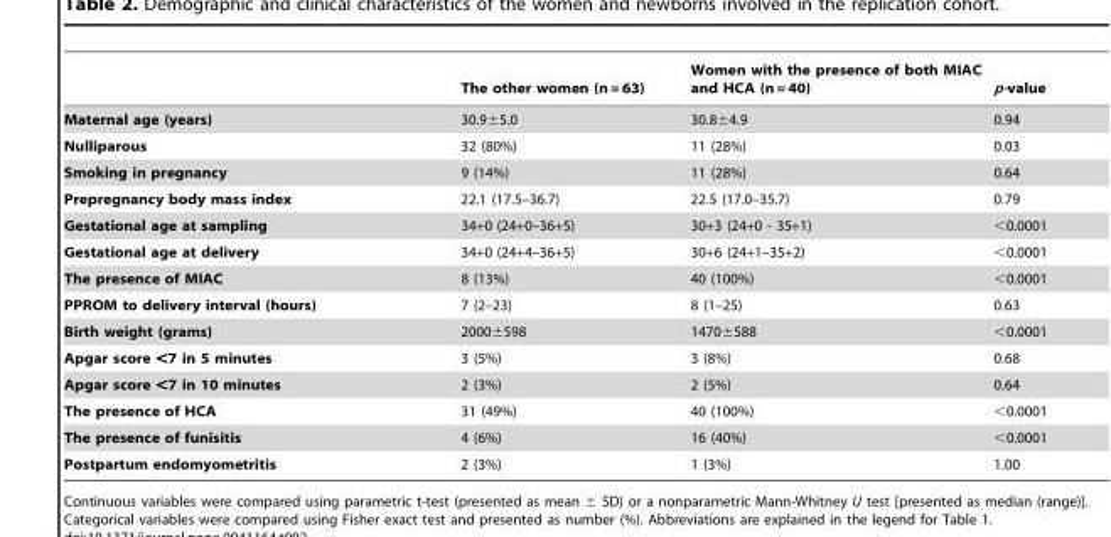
<table><thead><tr><td></td><td>The other women (n = 63)</td><td>Women with the presence of both MIAC and HCA (n = 40)</td><td>p-value</td></tr></thead><tbody><tr><td>Maternal age (years)</td><td>30.9±5.0</td><td>30.8±4.9</td><td>0.94</td></tr><tr><td>Nulliparous</td><td>32 (80%)</td><td>11 (28%)</td><td>0.03</td></tr><tr><td>Smoking in pregnancy</td><td>9 (14%)</td><td>11 (28%)</td><td>0.64</td></tr><tr><td>Prepregnancy body mass index</td><td>22.1 (17.5–36.7)</td><td>22.5 (17.0–35.7)</td><td>0.79</td></tr><tr><td>Gestational age at sampling</td><td>34+0 (24+0–36+5)</td><td>30+3 (24+0 - 35+1)</td><td>&lt;0.0001</td></tr><tr><td>Gestational age at delivery</td><td>34+0 (24+4–36+5)</td><td>30+6 (24+1–35+2)</td><td>&lt;0.0001</td></tr><tr><td>The presence of MIAC</td><td>8 (13%)</td><td>40 (100%)</td><td>&lt;0.0001</td></tr><tr><td>PPROM to delivery interval (hours)</td><td>7 (2–23)</td><td>8 (1–25)</td><td>0.63</td></tr><tr><td>Birth weight (grams)</td><td>2000±598</td><td>1470±588</td><td>&lt;0.0001</td></tr><tr><td>Apgar score &lt;7 in 5 minutes</td><td>3 (5%)</td><td>3 (8%)</td><td>0.68</td></tr><tr><td>Apgar score &lt;7 in 10 minutes</td><td>2 (3%)</td><td>2 (5%)</td><td>0.64</td></tr><tr><td>The presence of HCA</td><td>31 (49%)</td><td>40 (100%)</td><td>&lt;0.0001</td></tr><tr><td>The presence of funisitis</td><td>4 (6%)</td><td>16 (40%)</td><td>&lt;0.0001</td></tr><tr><td>Postpartum endomyometritis</td><td>2 (3%)</td><td>1 (3%)</td><td>1.00</td></tr></tbody></table>